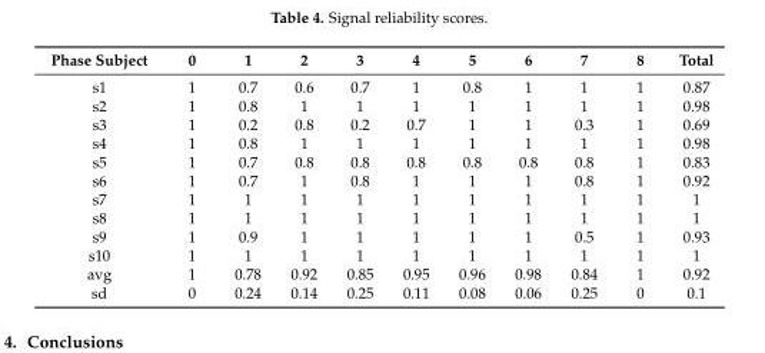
<table><thead><tr><td>Phase Subject</td><td>0</td><td>1</td><td>2</td><td>3</td><td>4</td><td>5</td><td>6</td><td>7</td><td>8</td><td>Total</td></tr></thead><tbody><tr><td>s1</td><td>1</td><td>0.7</td><td>0.6</td><td>0.7</td><td>1</td><td>0.8</td><td>1</td><td>1</td><td>1</td><td>0.87</td></tr><tr><td>s2</td><td>1</td><td>0.8</td><td>1</td><td>1</td><td>1</td><td>1</td><td>1</td><td>1</td><td>1</td><td>0.98</td></tr><tr><td>s3</td><td>1</td><td>0.2</td><td>0.8</td><td>0.2</td><td>0.7</td><td>1</td><td>1</td><td>0.3</td><td>1</td><td>0.69</td></tr><tr><td>s4</td><td>1</td><td>0.8</td><td>1</td><td>1</td><td>1</td><td>1</td><td>1</td><td>1</td><td>1</td><td>0.98</td></tr><tr><td>s5</td><td>1</td><td>0.7</td><td>0.8</td><td>0.8</td><td>0.8</td><td>0.8</td><td>0.8</td><td>0.8</td><td>1</td><td>0.83</td></tr><tr><td>s6</td><td>1</td><td>0.7</td><td>1</td><td>0.8</td><td>1</td><td>1</td><td>1</td><td>0.8</td><td>1</td><td>0.92</td></tr><tr><td>s7</td><td>1</td><td>1</td><td>1</td><td>1</td><td>1</td><td>1</td><td>1</td><td>1</td><td>1</td><td>1</td></tr><tr><td>s8</td><td>1</td><td>1</td><td>1</td><td>1</td><td>1</td><td>1</td><td>1</td><td>1</td><td>1</td><td>1</td></tr><tr><td>s9</td><td>1</td><td>0.9</td><td>1</td><td>1</td><td>1</td><td>1</td><td>1</td><td>0.5</td><td>1</td><td>0.93</td></tr><tr><td>s10</td><td>1</td><td>1</td><td>1</td><td>1</td><td>1</td><td>1</td><td>1</td><td>1</td><td>1</td><td>1</td></tr><tr><td>avg</td><td>1</td><td>0.78</td><td>0.92</td><td>0.85</td><td>0.95</td><td>0.96</td><td>0.98</td><td>0.84</td><td>1</td><td>0.92</td></tr><tr><td>sd</td><td>0</td><td>0.24</td><td>0.14</td><td>0.25</td><td>0.11</td><td>0.08</td><td>0.06</td><td>0.25</td><td>0</td><td>0.1</td></tr></tbody></table>